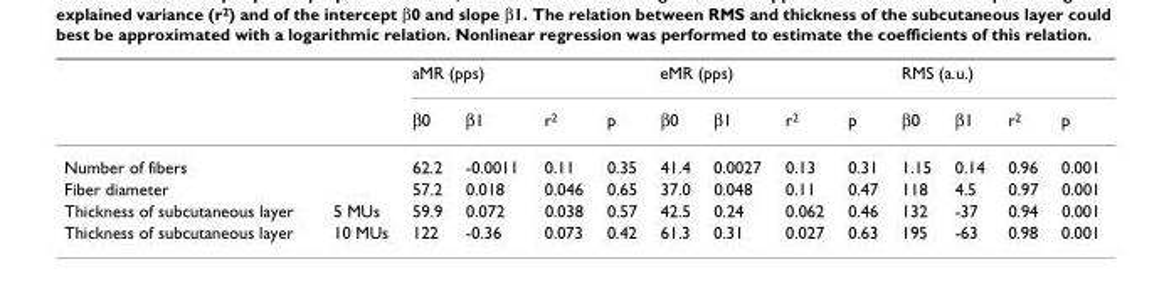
<table><thead><tr><td rowspan="2"></td><td rowspan="2"></td><td colspan="4">aMR (pps)</td><td colspan="4">eMR (pps)</td><td colspan="4">RMS (a.u.)</td></tr><tr><td>β0</td><td>β1</td><td>r<sup>2</sup></td><td>p</td><td>β0</td><td>β1</td><td>r<sup>2</sup></td><td>p</td><td>β0</td><td>β1</td><td>r<sup>2</sup></td><td>p</td></tr></thead><tbody><tr><td>Number of fibers</td><td></td><td>62.2</td><td>-0.0011</td><td>0.11</td><td>0.35</td><td>41.4</td><td>0.0027</td><td>0.13</td><td>0.31</td><td>1.15</td><td>0.14</td><td>0.96</td><td>0.001</td></tr><tr><td>Fiber diameter</td><td></td><td>57.2</td><td>0.018</td><td>0.046</td><td>0.65</td><td>37.0</td><td>0.048</td><td>0.11</td><td>0.47</td><td>118</td><td>4.5</td><td>0.97</td><td>0.001</td></tr><tr><td>Thickness of subcutaneous layer</td><td>5 MUs</td><td>59.9</td><td>0.072</td><td>0.038</td><td>0.57</td><td>42.5</td><td>0.24</td><td>0.062</td><td>0.46</td><td>132</td><td>-37</td><td>0.94</td><td>0.001</td></tr><tr><td>Thickness of subcutaneous layer</td><td>10 MUs</td><td>122</td><td>-0.36</td><td>0.073</td><td>0.42</td><td>61.3</td><td>0.31</td><td>0.027</td><td>0.63</td><td>195</td><td>-63</td><td>0.98</td><td>0.001</td></tr></tbody></table>